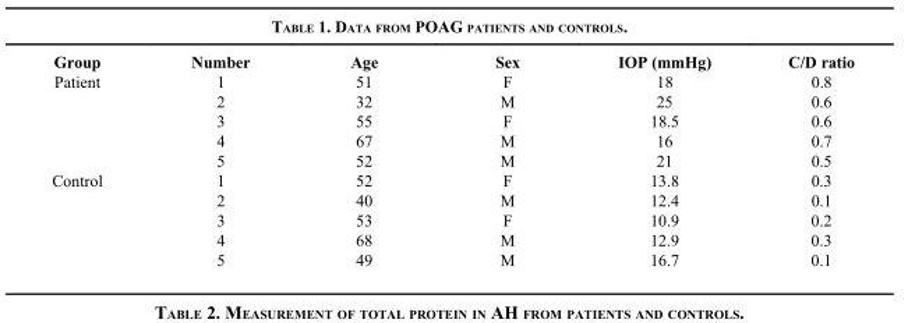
<table><thead><tr><td>Group</td><td>Number</td><td>Age</td><td>Sex</td><td>IOP (mmHg)</td><td>C/D ratio</td></tr></thead><tbody><tr><td rowspan="5">Patient</td><td>1</td><td>51</td><td>F</td><td>18</td><td>0.8</td></tr><tr><td>2</td><td>32</td><td>M</td><td>25</td><td>0.6</td></tr><tr><td>3</td><td>55</td><td>F</td><td>18.5</td><td>0.6</td></tr><tr><td>4</td><td>67</td><td>M</td><td>16</td><td>0.7</td></tr><tr><td>5</td><td>52</td><td>M</td><td>21</td><td>0.5</td></tr><tr><td rowspan="5">Control</td><td>1</td><td>52</td><td>F</td><td>13.8</td><td>0.3</td></tr><tr><td>2</td><td>40</td><td>M</td><td>12.4</td><td>0.1</td></tr><tr><td>3</td><td>53</td><td>F</td><td>10.9</td><td>0.2</td></tr><tr><td>4</td><td>68</td><td>M</td><td>12.9</td><td>0.3</td></tr><tr><td>5</td><td>49</td><td>M</td><td>16.7</td><td>0.1</td></tr></tbody></table>